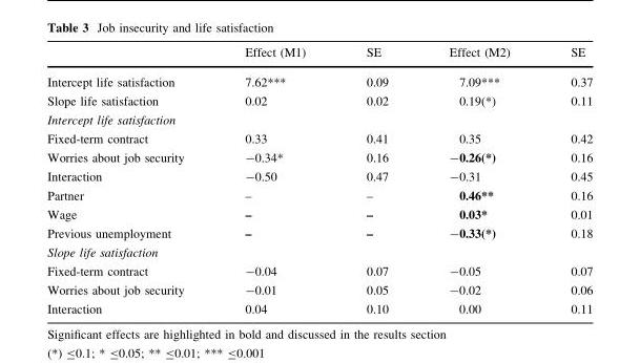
<table><thead><tr><td></td><td>Effect (M1)</td><td>SE</td><td>Effect (M2)</td><td>SE</td></tr></thead><tbody><tr><td>Intercept life satisfaction</td><td>7.62***</td><td>0.09</td><td>7.09***</td><td>0.37</td></tr><tr><td>Slope life satisfaction</td><td>0.02</td><td>0.02</td><td>0.19(*)</td><td>0.11</td></tr><tr><td colspan="5">Intercept life satisfaction</td></tr><tr><td>Fixed-term contract</td><td>0.33</td><td>0.41</td><td>0.35</td><td>0.42</td></tr><tr><td>Worries about job security</td><td>-0.34*</td><td>0.16</td><td>-0.26(*)</td><td>0.16</td></tr><tr><td>Interaction</td><td>-0.50</td><td>0.47</td><td>-0.31</td><td>0.45</td></tr><tr><td>Partner</td><td>–</td><td>–</td><td>0.46**</td><td>0.16</td></tr><tr><td>Wage</td><td>–</td><td>–</td><td>0.03*</td><td>0.01</td></tr><tr><td>Previous unemployment</td><td>–</td><td>–</td><td>-0.33(*)</td><td>0.18</td></tr><tr><td colspan="5">Slope life satisfaction</td></tr><tr><td>Fixed-term contract</td><td>-0.04</td><td>0.07</td><td>-0.05</td><td>0.07</td></tr><tr><td>Worries about job security</td><td>-0.01</td><td>0.05</td><td>-0.02</td><td>0.06</td></tr><tr><td>Interaction</td><td>0.04</td><td>0.10</td><td>0.00</td><td>0.11</td></tr></tbody></table>